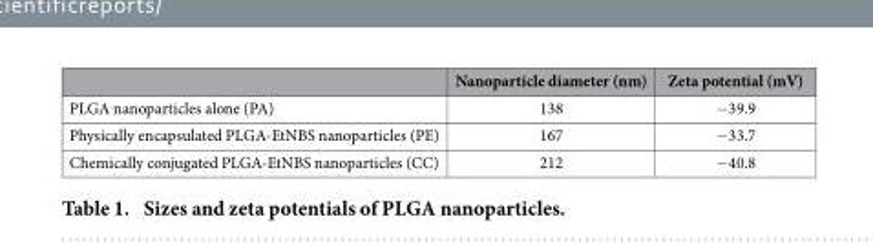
<table><thead><tr><td></td><td>Nanoparticle diameter (nm)</td><td>Zeta potential (mV)</td></tr></thead><tbody><tr><td>PLGA nanoparticles alone (PA)</td><td>138</td><td>− 39.9</td></tr><tr><td>Physically encapsulated PLGA-EtNBS nanoparticles (PE)</td><td>167</td><td>− 33.7</td></tr><tr><td>Chemically conjugated PLGA-EtNBS nanoparticles (CC)</td><td>212</td><td>− 40.8</td></tr></tbody></table>